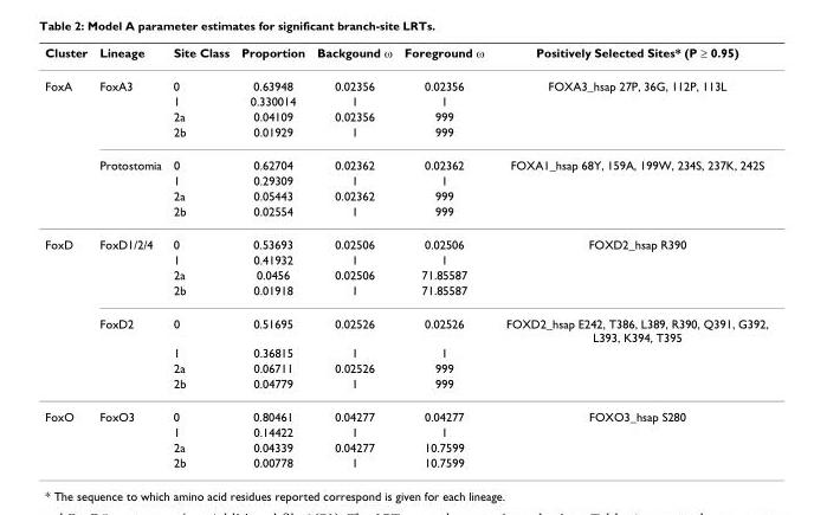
<table><thead><tr><td>Cluster</td><td>Lineage</td><td>Site Class</td><td>Proportion</td><td>Backgound ω</td><td>Foreground ω</td><td>Positively Selected Sites* (P ≥ 0.95)</td></tr></thead><tbody><tr><td rowspan="8">FoxA</td><td>FoxA3</td><td>0</td><td>0.63948</td><td>0.02356</td><td>0.02356</td><td>FOXA3_hsap 27P, 36G, 112P, 113L</td></tr><tr><td></td><td>1</td><td>0.330014</td><td>1</td><td>1</td><td></td></tr><tr><td></td><td>2a</td><td>0.04109</td><td>0.02356</td><td>999</td><td></td></tr><tr><td></td><td>2b</td><td>0.01929</td><td>1</td><td>999</td><td></td></tr><tr><td>Protostomia</td><td>0</td><td>0.62704</td><td>0.02362</td><td>0.02362</td><td>FOXA1_hsap 68Y, 159A, 199W, 234S, 237K, 242S</td></tr><tr><td></td><td>1</td><td>0.29309</td><td>1</td><td>1</td><td></td></tr><tr><td></td><td>2a</td><td>0.05443</td><td>0.02362</td><td>999</td><td></td></tr><tr><td></td><td>2b</td><td>0.02554</td><td>1</td><td>999</td><td></td></tr><tr><td rowspan="8">FoxD</td><td>FoxD1/2/4</td><td>0</td><td>0.53693</td><td>0.02506</td><td>0.02506</td><td>FOXD2_hsap R390</td></tr><tr><td></td><td>1</td><td>0.41932</td><td>1</td><td>1</td><td></td></tr><tr><td></td><td>2a</td><td>0.0456</td><td>0.02506</td><td>71.85587</td><td></td></tr><tr><td></td><td>2b</td><td>0.01918</td><td>1</td><td>71.85587</td><td></td></tr><tr><td>FoxD2</td><td>0</td><td>0.51695</td><td>0.02526</td><td>0.02526</td><td>FOXD2_hsap E242, T386, L389, R390, Q391, G392, L393, K394, T395</td></tr><tr><td></td><td>1</td><td>0.36815</td><td>1</td><td>1</td><td></td></tr><tr><td></td><td>2a</td><td>0.06711</td><td>0.02526</td><td>999</td><td></td></tr><tr><td></td><td>2b</td><td>0.04779</td><td>1</td><td>999</td><td></td></tr><tr><td rowspan="4">FoxO</td><td>FoxO3</td><td>0</td><td>0.80461</td><td>0.04277</td><td>0.04277</td><td>FOXO3_hsap S280</td></tr><tr><td></td><td>1</td><td>0.14422</td><td>1</td><td>1</td><td></td></tr><tr><td></td><td>2a</td><td>0.04339</td><td>0.04277</td><td>10.7599</td><td></td></tr><tr><td></td><td>2b</td><td>0.00778</td><td>1</td><td>10.7599</td><td></td></tr></tbody></table>